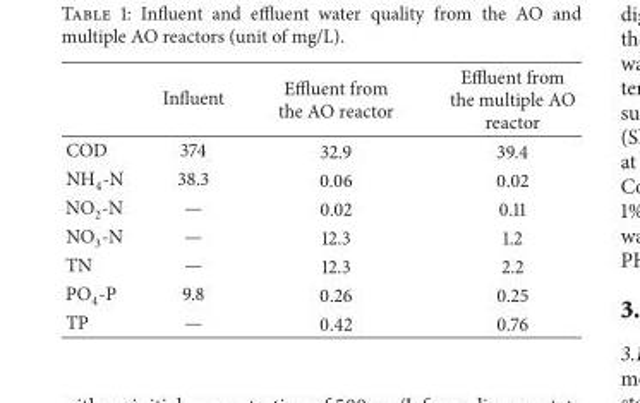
<table><thead><tr><td></td><td>Influent</td><td>Effluent from the AO reactor</td><td>Effluent from the multiple AO reactor</td></tr></thead><tbody><tr><td>COD</td><td>374</td><td>32.9</td><td>39.4</td></tr><tr><td>NH<sub>4</sub>-N</td><td>38.3</td><td>0.06</td><td>0.02</td></tr><tr><td>NO<sub>2</sub>-N</td><td>—</td><td>0.02</td><td>0.11</td></tr><tr><td>NO<sub>3</sub>-N</td><td>—</td><td>12.3</td><td>1.2</td></tr><tr><td>TN</td><td>—</td><td>12.3</td><td>2.2</td></tr><tr><td>PO<sub>4</sub>-P</td><td>9.8</td><td>0.26</td><td>0.25</td></tr><tr><td>TP</td><td>—</td><td>0.42</td><td>0.76</td></tr></tbody></table>